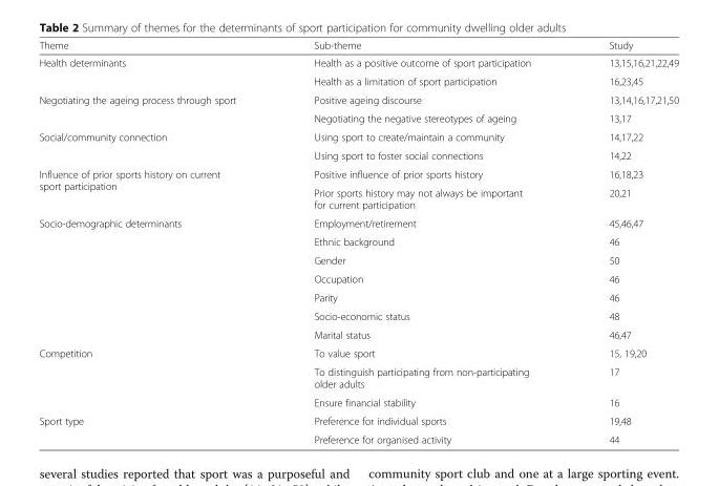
<table><thead><tr><td>Theme</td><td>Sub-theme</td><td>Study</td></tr></thead><tbody><tr><td rowspan="2">Health determinants</td><td>Health as a positive outcome of sport participation</td><td>13,15,16,21,22,49</td></tr><tr><td>Health as a limitation of sport participation</td><td>16,23,45</td></tr><tr><td rowspan="2">Negotiating the ageing process through sport</td><td>Positive ageing discourse</td><td>13,14,16,17,21,50</td></tr><tr><td>Negotiating the negative stereotypes of ageing</td><td>13,17</td></tr><tr><td rowspan="2">Social/community connection</td><td>Using sport to create/maintain a community</td><td>14,17,22</td></tr><tr><td>Using sport to foster social connections</td><td>14,22</td></tr><tr><td rowspan="2">Influence of prior sports history on current sport participation</td><td>Positive influence of prior sports history</td><td>16,18,23</td></tr><tr><td>Prior sports history may not always be important for current participation</td><td>20,21</td></tr><tr><td rowspan="7">Socio-demographic determinants</td><td>Employment/retirement</td><td>45,46,47</td></tr><tr><td>Ethnic background</td><td>46</td></tr><tr><td>Gender</td><td>50</td></tr><tr><td>Occupation</td><td>46</td></tr><tr><td>Parity</td><td>46</td></tr><tr><td>Socio-economic status</td><td>48</td></tr><tr><td>Marital status</td><td>46,47</td></tr><tr><td rowspan="3">Competition</td><td>To value sport</td><td>15, 19,20</td></tr><tr><td>To distinguish participating from non-participating older adults</td><td>17</td></tr><tr><td>Ensure financial stability</td><td>16</td></tr><tr><td rowspan="2">Sport type</td><td>Preference for individual sports</td><td>19,48</td></tr><tr><td>Preference for organised activity</td><td>44</td></tr></tbody></table>